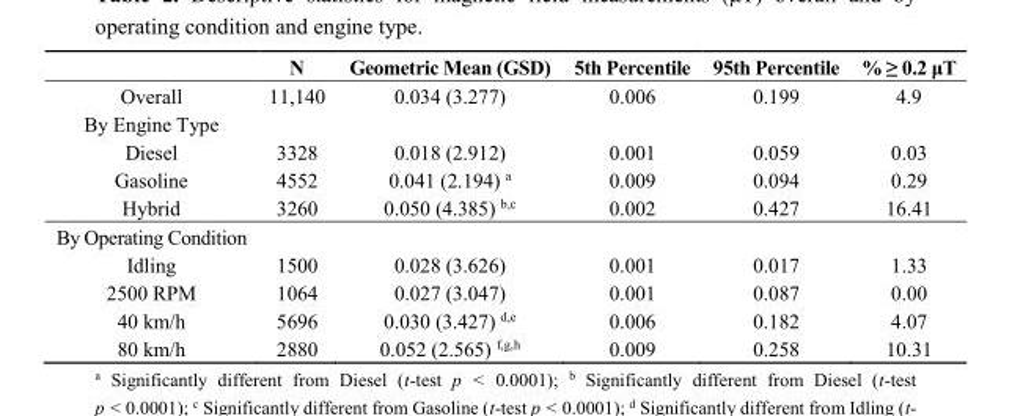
<table><thead><tr><td></td><td>N</td><td>Geometric Mean (GSD)</td><td>5th Percentile</td><td>95th Percentile</td><td>% ≥ 0.2 μT</td></tr></thead><tbody><tr><td>Overall</td><td>11,140</td><td>0.034 (3.277)</td><td>0.006</td><td>0.199</td><td>4.9</td></tr><tr><td colspan="6">By Engine Type</td></tr><tr><td>Diesel</td><td>3328</td><td>0.018 (2.912)</td><td>0.001</td><td>0.059</td><td>0.03</td></tr><tr><td>Gasoline</td><td>4552</td><td>0.041 (2.194) <sup>a</sup></td><td>0.009</td><td>0.094</td><td>0.29</td></tr><tr><td>Hybrid</td><td>3260</td><td>0.050 (4.385) <sup>b,c</sup></td><td>0.002</td><td>0.427</td><td>16.41</td></tr><tr><td colspan="6">By Operating Condition</td></tr><tr><td>Idling</td><td>1500</td><td>0.028 (3.626)</td><td>0.001</td><td>0.017</td><td>1.33</td></tr><tr><td>2500 RPM</td><td>1064</td><td>0.027 (3.047)</td><td>0.001</td><td>0.087</td><td>0.00</td></tr><tr><td>40 km/h</td><td>5696</td><td>0.030 (3.427) <sup>d,e</sup></td><td>0.006</td><td>0.182</td><td>4.07</td></tr><tr><td>80 km/h</td><td>2880</td><td>0.052 (2.565) <sup>f,g,h</sup></td><td>0.009</td><td>0.258</td><td>10.31</td></tr></tbody></table>